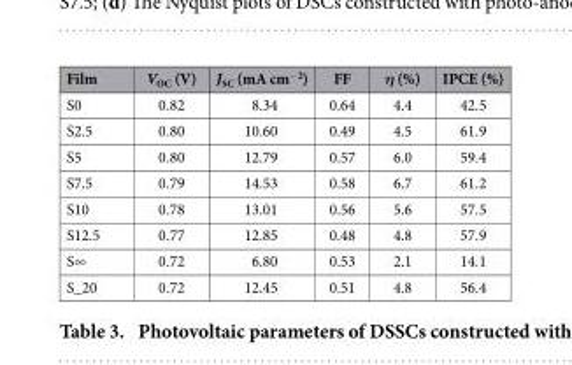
<table><thead><tr><td>Film</td><td>V<sub>OC</sub> (V)</td><td>J<sub>SC</sub> (mA cm<sup>−2</sup>)</td><td>FF</td><td>η (%)</td><td>IPCE (%)</td></tr></thead><tbody><tr><td>S0</td><td>0.82</td><td>8.34</td><td>0.64</td><td>4.4</td><td>42.5</td></tr><tr><td>S2.5</td><td>0.80</td><td>10.60</td><td>0.49</td><td>4.5</td><td>61.9</td></tr><tr><td>S5</td><td>0.80</td><td>12.79</td><td>0.57</td><td>6.0</td><td>59.4</td></tr><tr><td>S7.5</td><td>0.79</td><td>14.53</td><td>0.58</td><td>6.7</td><td>61.2</td></tr><tr><td>S10</td><td>0.78</td><td>13.01</td><td>0.56</td><td>5.6</td><td>57.5</td></tr><tr><td>S12.5</td><td>0.77</td><td>12.85</td><td>0.48</td><td>4.8</td><td>57.9</td></tr><tr><td>S∞</td><td>0.72</td><td>6.80</td><td>0.53</td><td>2.1</td><td>14.1</td></tr><tr><td>S_20</td><td>0.72</td><td>12.45</td><td>0.51</td><td>4.8</td><td>56.4</td></tr></tbody></table>